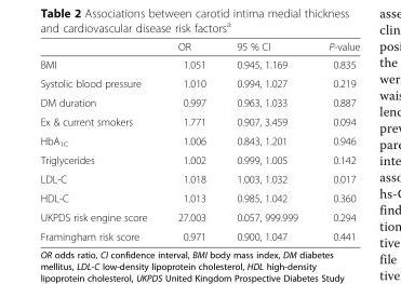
<table><thead><tr><td></td><td>OR</td><td>95 % CI</td><td>P-value</td></tr></thead><tbody><tr><td>BMI</td><td>1.051</td><td>0.945, 1.169</td><td>0.835</td></tr><tr><td>Systolic blood pressure</td><td>1.010</td><td>0.994, 1.027</td><td>0.219</td></tr><tr><td>DM duration</td><td>0.997</td><td>0.963, 1.033</td><td>0.887</td></tr><tr><td>Ex &amp; current smokers</td><td>1.771</td><td>0.907, 3.459</td><td>0.094</td></tr><tr><td>HbA<sub>1C</sub></td><td>1.006</td><td>0.843, 1.201</td><td>0.946</td></tr><tr><td>Triglycerides</td><td>1.002</td><td>0.999, 1.005</td><td>0.142</td></tr><tr><td>LDL-C</td><td>1.018</td><td>1.003, 1.032</td><td>0.017</td></tr><tr><td>HDL-C</td><td>1.013</td><td>0.985, 1.042</td><td>0.360</td></tr><tr><td>UKPDS risk engine score</td><td>27.003</td><td>0.057, 999.999</td><td>0.294</td></tr><tr><td>Framingham risk score</td><td>0.971</td><td>0.900, 1.047</td><td>0.441</td></tr></tbody></table>